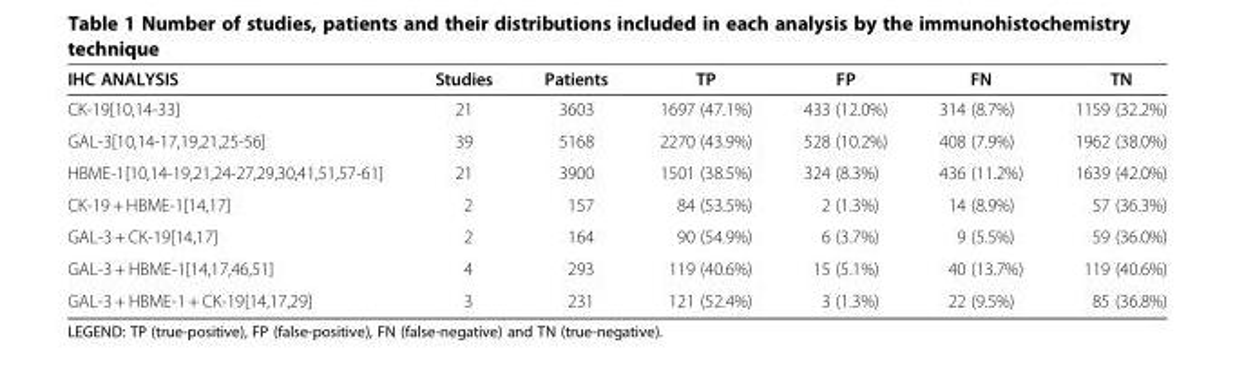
<table><thead><tr><td>IHC ANALYSIS</td><td>Studies</td><td>Patients</td><td>TP</td><td>FP</td><td>FN</td><td>TN</td></tr></thead><tbody><tr><td>CK-19[10,14-33]</td><td>21</td><td>3603</td><td>1697 (47.1%)</td><td>433 (12.0%)</td><td>314 (8.7%)</td><td>1159 (32.2%)</td></tr><tr><td>GAL-3[10,14-17,19,21,25-56]</td><td>39</td><td>5168</td><td>2270 (43.9%)</td><td>528 (10.2%)</td><td>408 (7.9%)</td><td>1962 (38.0%)</td></tr><tr><td>HBME-1[10,14-19,21,24-27,29,30,41,51,57-61]</td><td>21</td><td>3900</td><td>1501 (38.5%)</td><td>324 (8.3%)</td><td>436 (11.2%)</td><td>1639 (42.0%)</td></tr><tr><td>CK-19 + HBME-1[14,17]</td><td>2</td><td>157</td><td>84 (53.5%)</td><td>2 (1.3%)</td><td>14 (8.9%)</td><td>57 (36.3%)</td></tr><tr><td>GAL-3 + CK-19[14,17]</td><td>2</td><td>164</td><td>90 (54.9%)</td><td>6 (3.7%)</td><td>9 (5.5%)</td><td>59 (36.0%)</td></tr><tr><td>GAL-3 + HBME-1[14,17,46,51]</td><td>4</td><td>293</td><td>119 (40.6%)</td><td>15 (5.1%)</td><td>40 (13.7%)</td><td>119 (40.6%)</td></tr><tr><td>GAL-3 + HBME-1 + CK-19[14,17,29]</td><td>3</td><td>231</td><td>121 (52.4%)</td><td>3 (1.3%)</td><td>22 (9.5%)</td><td>85 (36.8%)</td></tr></tbody></table>